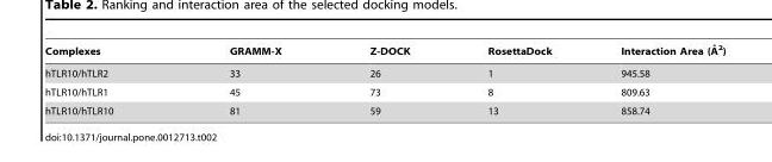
<table><thead><tr><td>Complexes</td><td>GRAMM-X</td><td>Z-DOCK</td><td>RosettaDock</td><td>Interaction Area (A˚ 2)</td></tr></thead><tbody><tr><td>hTLR10/hTLR2</td><td>33</td><td>26</td><td>1</td><td>945.58</td></tr><tr><td>hTLR10/hTLR1</td><td>45</td><td>73</td><td>8</td><td>809.63</td></tr><tr><td>hTLR10/hTLR10</td><td>81</td><td>59</td><td>13</td><td>858.74</td></tr></tbody></table>